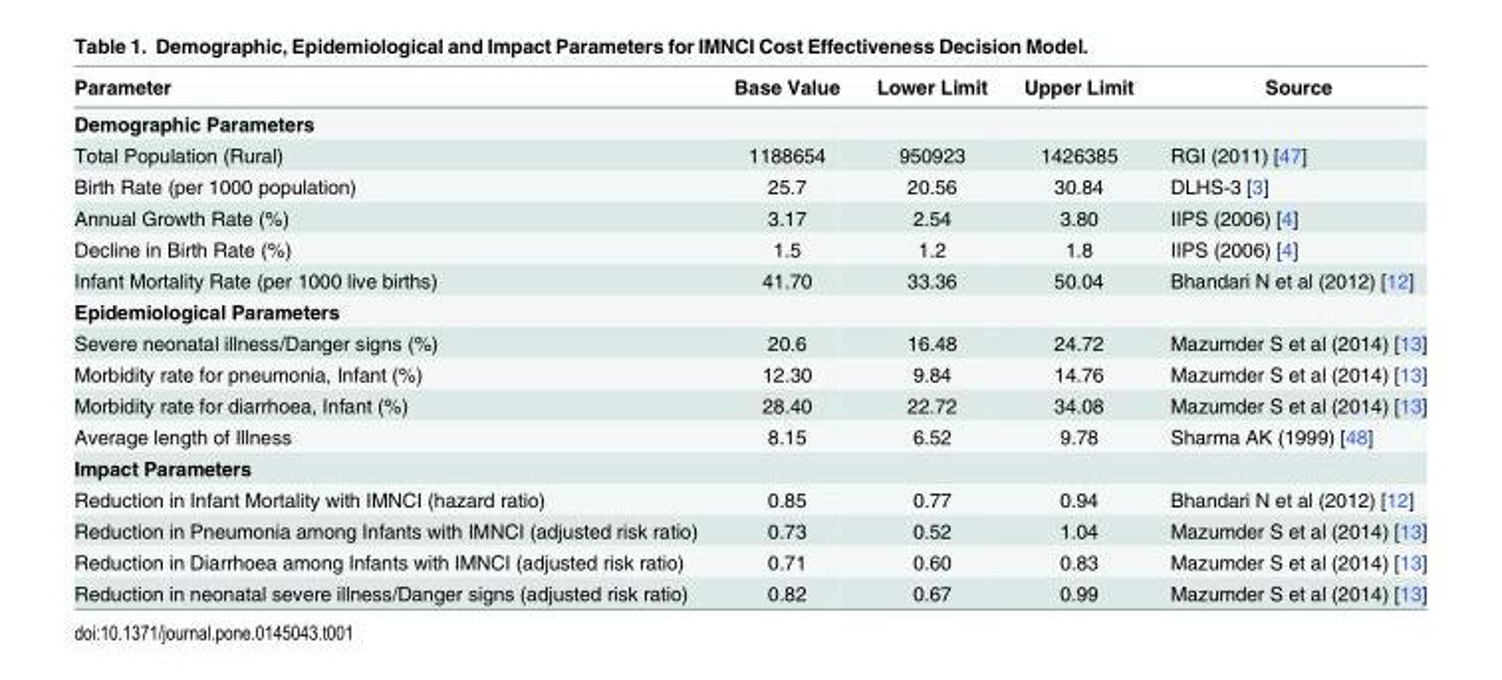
<table><thead><tr><td>Parameter</td><td>Base Value</td><td>Lower Limit</td><td>Upper Limit</td><td>Source</td></tr></thead><tbody><tr><td colspan="5">Demographic Parameters</td></tr><tr><td>Total Population (Rural)</td><td>1188654</td><td>950923</td><td>1426385</td><td>RGI (2011) [47]</td></tr><tr><td>Birth Rate (per 1000 population)</td><td>25.7</td><td>20.56</td><td>30.84</td><td>DLHS-3 [3]</td></tr><tr><td>Annual Growth Rate (%)</td><td>3.17</td><td>2.54</td><td>3.80</td><td>IIPS (2006) [4]</td></tr><tr><td>Decline in Birth Rate (%)</td><td>1.5</td><td>1.2</td><td>1.8</td><td>IIPS (2006) [4]</td></tr><tr><td>Infant Mortality Rate (per 1000 live births)</td><td>41.70</td><td>33.36</td><td>50.04</td><td>Bhandari N et al (2012) [12]</td></tr><tr><td colspan="5">Epidemiological Parameters</td></tr><tr><td>Severe neonatal illness/Danger signs (%)</td><td>20.6</td><td>16.48</td><td>24.72</td><td>Mazumder S et al (2014) [13]</td></tr><tr><td>Morbidity rate for pneumonia, Infant (%)</td><td>12.30</td><td>9.84</td><td>14.76</td><td>Mazumder S et al (2014) [13]</td></tr><tr><td>Morbidity rate for diarrhoea, Infant (%)</td><td>28.40</td><td>22.72</td><td>34.08</td><td>Mazumder S et al (2014) [13]</td></tr><tr><td>Average length of Illness</td><td>8.15</td><td>6.52</td><td>9.78</td><td>Sharma AK (1999) [48]</td></tr><tr><td colspan="5">Impact Parameters</td></tr><tr><td>Reduction in Infant Mortality with IMNCI (hazard ratio)</td><td>0.85</td><td>0.77</td><td>0.94</td><td>Bhandari N et al (2012) [12]</td></tr><tr><td>Reduction in Pneumonia among Infants with IMNCI (adjusted risk ratio)</td><td>0.73</td><td>0.52</td><td>1.04</td><td>Mazumder S et al (2014) [13]</td></tr><tr><td>Reduction in Diarrhoea among Infants with IMNCI (adjusted risk ratio)</td><td>0.71</td><td>0.60</td><td>0.83</td><td>Mazumder S et al (2014) [13]</td></tr><tr><td>Reduction in neonatal severe illness/Danger signs (adjusted risk ratio)</td><td>0.82</td><td>0.67</td><td>0.99</td><td>Mazumder S et al (2014) [13]</td></tr></tbody></table>